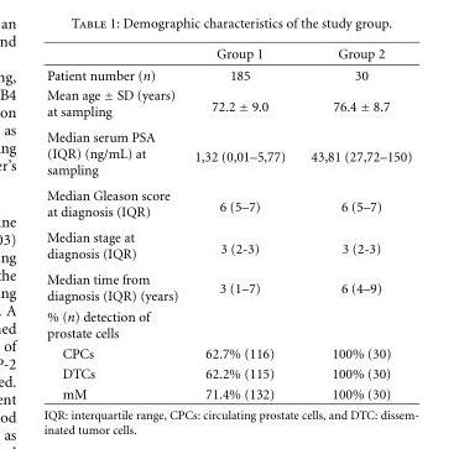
<table><thead><tr><td></td><td>Group 1</td><td>Group 2</td></tr></thead><tbody><tr><td>Patient number (n)</td><td>185</td><td>30</td></tr><tr><td>Mean age ± SD (years) at sampling</td><td>72.2 ± 9.0</td><td>76.4 ± 8.7</td></tr><tr><td>Median serum PSA (IQR) (ng/mL) at sampling</td><td>1,32 (0,01–5,77)</td><td>43,81 (27,72–150)</td></tr><tr><td>Median Gleason score at diagnosis (IQR)</td><td>6 (5–7)</td><td>6 (5–7)</td></tr><tr><td>Median stage at diagnosis (IQR)</td><td>3 (2-3)</td><td>3 (2-3)</td></tr><tr><td>Median time from diagnosis (IQR) (years)</td><td>3 (1–7)</td><td>6 (4–9)</td></tr><tr><td colspan="3">% (n) detection of prostate cells</td></tr><tr><td>CPCs</td><td>62.7% (116)</td><td>100% (30)</td></tr><tr><td>DTCs</td><td>62.2% (115)</td><td>100% (30)</td></tr><tr><td>mM</td><td>71.4% (132)</td><td>100% (30)</td></tr></tbody></table>